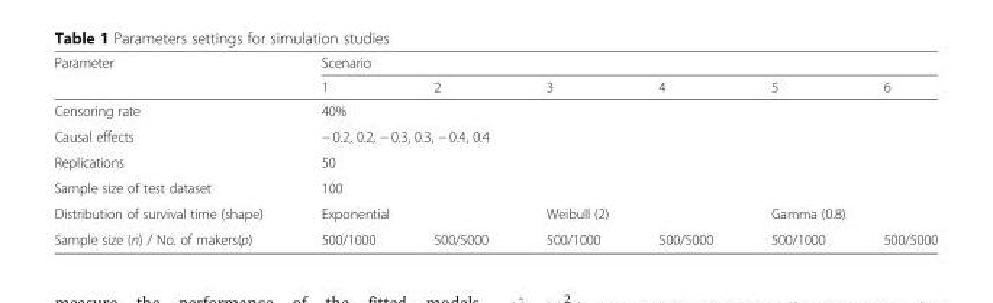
<table><thead><tr><td rowspan="2">Parameter</td><td colspan="6">Scenario</td></tr><tr><td>1</td><td>2</td><td>3</td><td>4</td><td>5</td><td>6</td></tr></thead><tbody><tr><td>Censoring rate</td><td colspan="6">40%</td></tr><tr><td>Causal effects</td><td colspan="6">− 0.2, 0.2, − 0.3, 0.3, − 0.4, 0.4</td></tr><tr><td>Replications</td><td colspan="6">50</td></tr><tr><td>Sample size of test dataset</td><td colspan="6">100</td></tr><tr><td>Distribution of survival time (shape)</td><td colspan="2">Exponential</td><td colspan="2">Weibull (2)</td><td colspan="2">Gamma (0.8)</td></tr><tr><td>Sample size (n) / No. of makers(p)</td><td>500/1000</td><td>500/5000</td><td>500/1000</td><td>500/5000</td><td>500/1000</td><td>500/5000</td></tr></tbody></table>